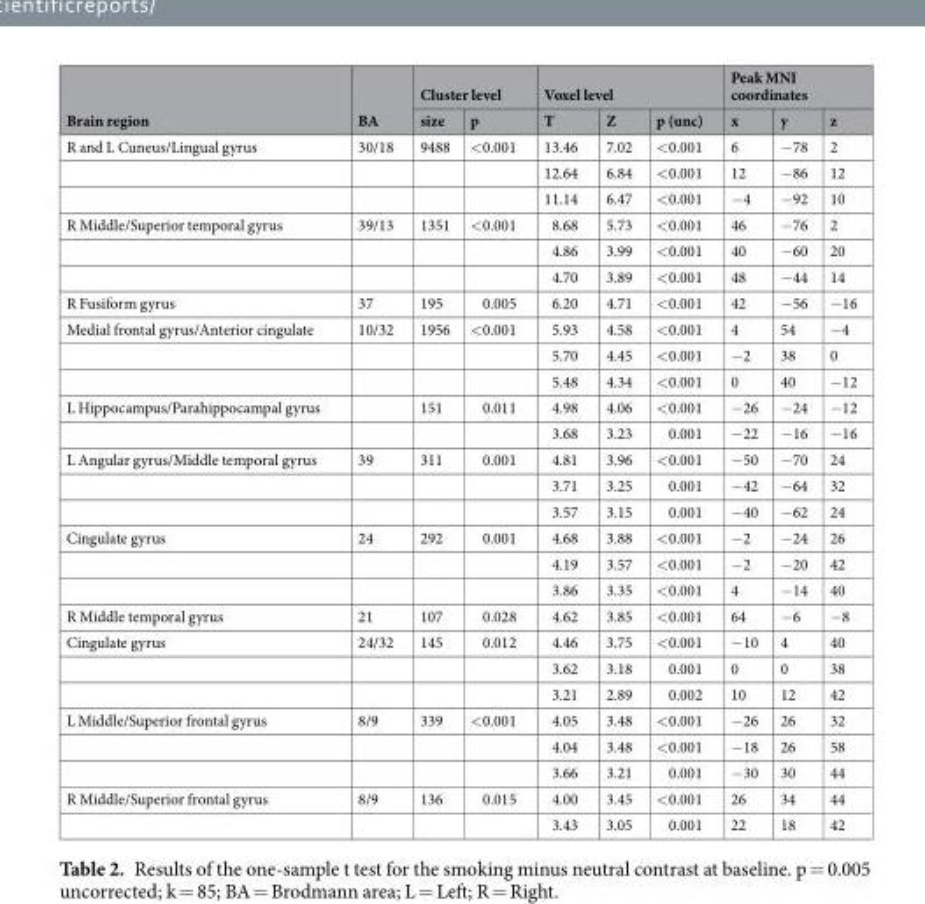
<table><thead><tr><td rowspan="2">Brain region</td><td rowspan="2">BA</td><td colspan="2">Cluster level</td><td colspan="3">Voxel level</td><td colspan="3">Peak MNI coordinates</td></tr><tr><td>size</td><td>p</td><td>T</td><td>Z</td><td>p (unc)</td><td>x</td><td>y</td><td>z</td></tr></thead><tbody><tr><td rowspan="3">R and L Cuneus/Lingual gyrus</td><td>30/18</td><td>9488</td><td>&lt;0.001</td><td>13.46</td><td>7.02</td><td>&lt;0.001</td><td>6</td><td>−78</td><td>2</td></tr><tr><td></td><td></td><td></td><td>12.64</td><td>6.84</td><td>&lt;0.001</td><td>12</td><td>−86</td><td>12</td></tr><tr><td></td><td></td><td></td><td>11.14</td><td>6.47</td><td>&lt;0.001</td><td>−4</td><td>−92</td><td>10</td></tr><tr><td rowspan="3">R Middle/Superior temporal gyrus</td><td>39/13</td><td>1351</td><td>&lt;0.001</td><td>8.68</td><td>5.73</td><td>&lt;0.001</td><td>46</td><td>−76</td><td>2</td></tr><tr><td></td><td></td><td></td><td>4.86</td><td>3.99</td><td>&lt;0.001</td><td>40</td><td>−60</td><td>20</td></tr><tr><td></td><td></td><td></td><td>4.70</td><td>3.89</td><td>&lt;0.001</td><td>48</td><td>−44</td><td>14</td></tr><tr><td>R Fusiform gyrus</td><td>37</td><td>195</td><td>0.005</td><td>6.20</td><td>4.71</td><td>&lt;0.001</td><td>42</td><td>−56</td><td>−16</td></tr><tr><td rowspan="3">Medial frontal gyrus/Anterior cingulate</td><td>10/32</td><td>1956</td><td>&lt;0.001</td><td>5.93</td><td>4.58</td><td>&lt;0.001</td><td>4</td><td>54</td><td>−4</td></tr><tr><td></td><td></td><td></td><td>5.70</td><td>4.45</td><td>&lt;0.001</td><td>−2</td><td>38</td><td>0</td></tr><tr><td></td><td></td><td></td><td>5.48</td><td>4.34</td><td>&lt;0.001</td><td>0</td><td>40</td><td>−12</td></tr><tr><td rowspan="2">L Hippocampus/Parahippocampal gyrus</td><td></td><td>151</td><td>0.011</td><td>4.98</td><td>4.06</td><td>&lt;0.001</td><td>−26</td><td>−24</td><td>−12</td></tr><tr><td></td><td></td><td></td><td>3.68</td><td>3.23</td><td>0.001</td><td>−22</td><td>−16</td><td>−16</td></tr><tr><td rowspan="3">L Angular gyrus/Middle temporal gyrus</td><td>39</td><td>311</td><td>0.001</td><td>4.81</td><td>3.96</td><td>&lt;0.001</td><td>−50</td><td>−70</td><td>24</td></tr><tr><td></td><td></td><td></td><td>3.71</td><td>3.25</td><td>0.001</td><td>−42</td><td>−64</td><td>32</td></tr><tr><td></td><td></td><td></td><td>3.57</td><td>3.15</td><td>0.001</td><td>−40</td><td>−62</td><td>24</td></tr><tr><td rowspan="3">Cingulate gyrus</td><td>24</td><td>292</td><td>0.001</td><td>4.68</td><td>3.88</td><td>&lt;0.001</td><td>−2</td><td>−24</td><td>26</td></tr><tr><td></td><td></td><td></td><td>4.19</td><td>3.57</td><td>&lt;0.001</td><td>−2</td><td>−20</td><td>42</td></tr><tr><td></td><td></td><td></td><td>3.86</td><td>3.35</td><td>&lt;0.001</td><td>4</td><td>−14</td><td>40</td></tr><tr><td>R Middle temporal gyrus</td><td>21</td><td>107</td><td>0.028</td><td>4.62</td><td>3.85</td><td>&lt;0.001</td><td>64</td><td>−6</td><td>−8</td></tr><tr><td rowspan="3">Cingulate gyrus</td><td>24/32</td><td>145</td><td>0.012</td><td>4.46</td><td>3.75</td><td>&lt;0.001</td><td>−10</td><td>4</td><td>40</td></tr><tr><td></td><td></td><td></td><td>3.62</td><td>3.18</td><td>0.001</td><td>0</td><td>0</td><td>38</td></tr><tr><td></td><td></td><td></td><td>3.21</td><td>2.89</td><td>0.002</td><td>10</td><td>12</td><td>42</td></tr><tr><td rowspan="3">L Middle/Superior frontal gyrus</td><td>8/9</td><td>339</td><td>&lt;0.001</td><td>4.05</td><td>3.48</td><td>&lt;0.001</td><td>−26</td><td>26</td><td>32</td></tr><tr><td></td><td></td><td></td><td>4.04</td><td>3.48</td><td>&lt;0.001</td><td>−18</td><td>26</td><td>58</td></tr><tr><td></td><td></td><td></td><td>3.66</td><td>3.21</td><td>0.001</td><td>−30</td><td>30</td><td>44</td></tr><tr><td rowspan="2">R Middle/Superior frontal gyrus</td><td>8/9</td><td>136</td><td>0.015</td><td>4.00</td><td>3.45</td><td>&lt;0.001</td><td>26</td><td>34</td><td>44</td></tr><tr><td></td><td></td><td></td><td>3.43</td><td>3.05</td><td>0.001</td><td>22</td><td>18</td><td>42</td></tr></tbody></table>